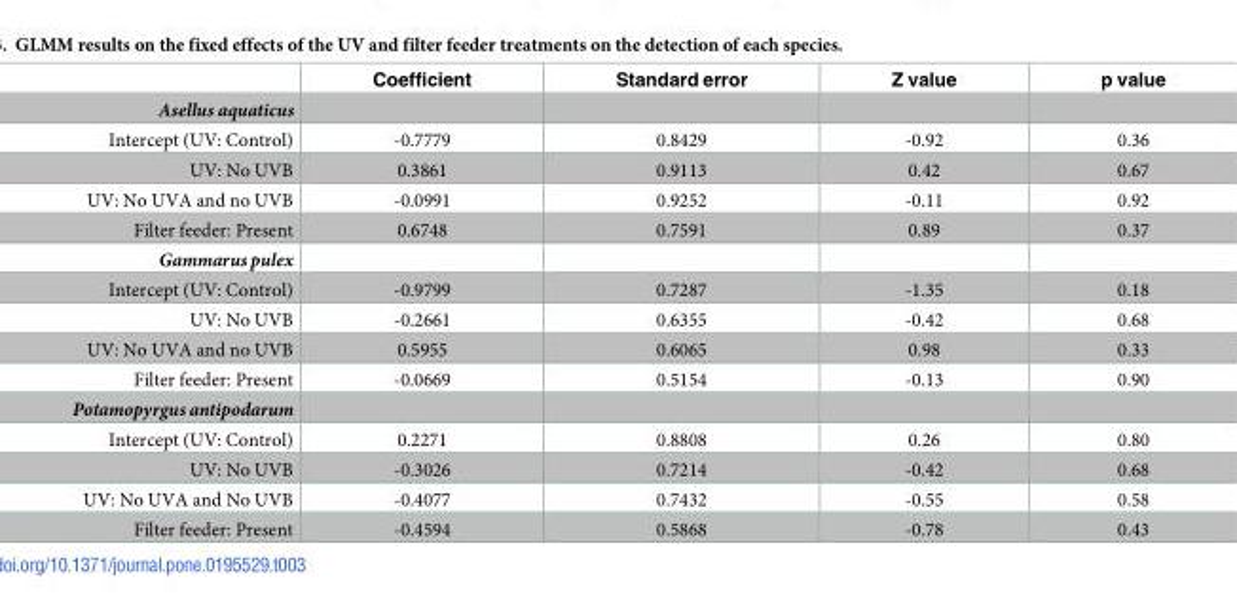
<table><thead><tr><td></td><td>Coefficient</td><td>Standard error</td><td>Z value</td><td>p value</td></tr></thead><tbody><tr><td colspan="5">Asellus aquaticus</td></tr><tr><td>Intercept (UV: Control)</td><td>-0.7779</td><td>0.8429</td><td>-0.92</td><td>0.36</td></tr><tr><td>UV: No UVB</td><td>0.3861</td><td>0.9113</td><td>0.42</td><td>0.67</td></tr><tr><td>UV: No UVA and no UVB</td><td>-0.0991</td><td>0.9252</td><td>-0.11</td><td>0.92</td></tr><tr><td>Filter feeder: Present</td><td>0.6748</td><td>0.7591</td><td>0.89</td><td>0.37</td></tr><tr><td colspan="5">Gammarus pulex</td></tr><tr><td>Intercept (UV: Control)</td><td>-0.9799</td><td>0.7287</td><td>-1.35</td><td>0.18</td></tr><tr><td>UV: No UVB</td><td>-0.2661</td><td>0.6355</td><td>-0.42</td><td>0.68</td></tr><tr><td>UV: No UVA and no UVB</td><td>0.5955</td><td>0.6065</td><td>0.98</td><td>0.33</td></tr><tr><td>Filter feeder: Present</td><td>-0.0669</td><td>0.5154</td><td>-0.13</td><td>0.90</td></tr><tr><td colspan="5">Potamopyrgus antipodarum</td></tr><tr><td>Intercept (UV: Control)</td><td>0.2271</td><td>0.8808</td><td>0.26</td><td>0.80</td></tr><tr><td>UV: No UVB</td><td>-0.3026</td><td>0.7214</td><td>-0.42</td><td>0.68</td></tr><tr><td>UV: No UVA and No UVB</td><td>-0.4077</td><td>0.7432</td><td>-0.55</td><td>0.58</td></tr><tr><td>Filter feeder: Present</td><td>-0.4594</td><td>0.5868</td><td>-0.78</td><td>0.43</td></tr></tbody></table>